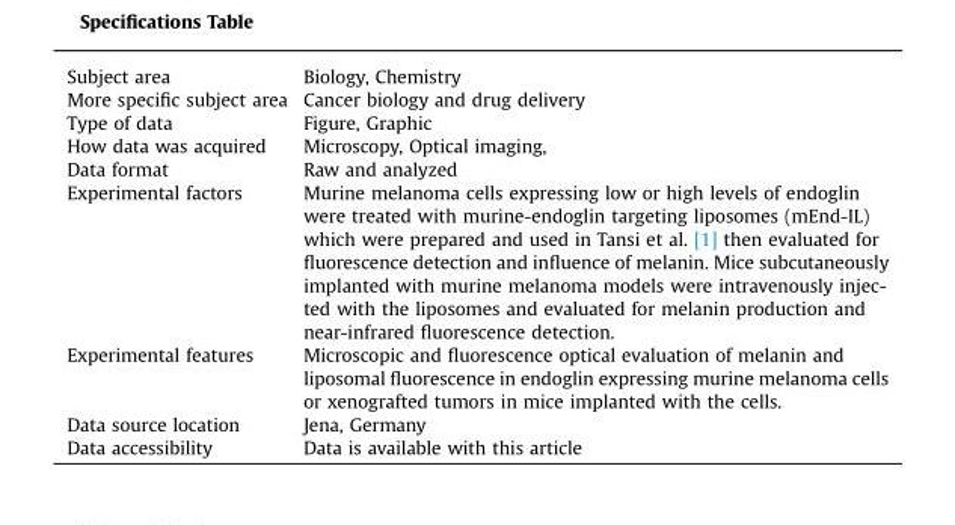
<table><tbody><tr><td>Subject area</td><td>Biology, Chemistry</td></tr><tr><td>More specific subject area</td><td>Cancer biology and drug delivery</td></tr><tr><td>Type of data</td><td>Figure, Graphic</td></tr><tr><td>How data was acquired</td><td>Microscopy, Optical imaging,</td></tr><tr><td>Data format</td><td>Raw and analyzed</td></tr><tr><td>Experimental factors</td><td>Murine melanoma cells expressing low or high levels of endoglin were treated with murine-endoglin targeting liposomes (mEnd-IL) which were prepared and used in Tansi et al. [1] then evaluated for fluorescence detection and influence of melanin. Mice subcutaneously implanted with murine melanoma models were intravenously injec- ted with the liposomes and evaluated for melanin production and near-infrared fluorescence detection.</td></tr><tr><td>Experimental features</td><td>Microscopic and fluorescence optical evaluation of melanin and liposomal fluorescence in endoglin expressing murine melanoma cells or xenografted tumors in mice implanted with the cells.</td></tr><tr><td>Data source location</td><td>Jena, Germany</td></tr><tr><td>Data accessibility</td><td>Data is available with this article</td></tr></tbody></table>